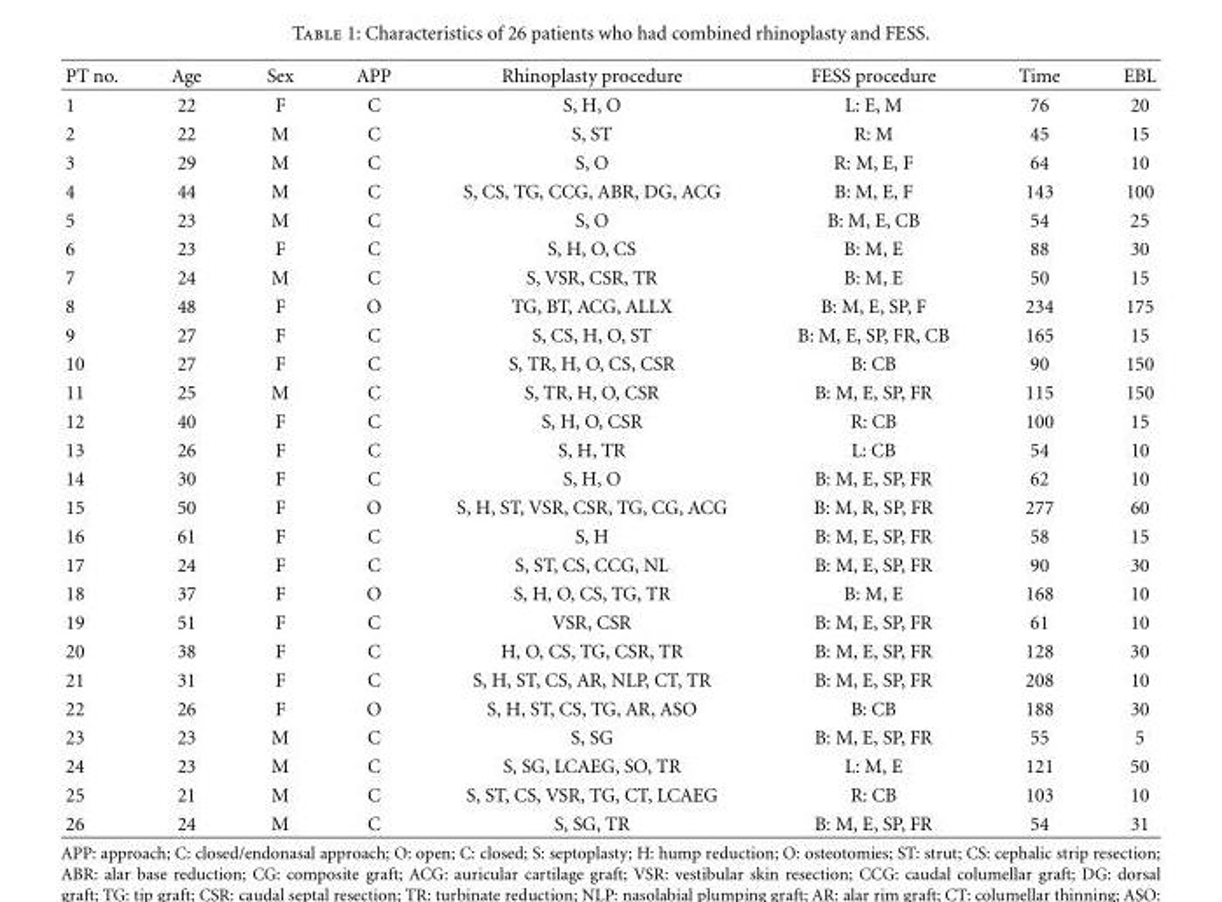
<table><thead><tr><td>PT no.</td><td>Age</td><td>Sex</td><td>APP</td><td>Rhinoplasty procedure</td><td>FESS procedure</td><td>Time</td><td>EBL</td></tr></thead><tbody><tr><td>1</td><td>22</td><td>F</td><td>C</td><td>S, H, O</td><td>L: E, M</td><td>76</td><td>20</td></tr><tr><td>2</td><td>22</td><td>M</td><td>C</td><td>S, ST</td><td>R: M</td><td>45</td><td>15</td></tr><tr><td>3</td><td>29</td><td>M</td><td>C</td><td>S, O</td><td>R: M, E, F</td><td>64</td><td>10</td></tr><tr><td>4</td><td>44</td><td>M</td><td>C</td><td>S, CS, TG, CCG, ABR, DG, ACG</td><td>B: M, E, F</td><td>143</td><td>100</td></tr><tr><td>5</td><td>23</td><td>M</td><td>C</td><td>S, O</td><td>B: M, E, CB</td><td>54</td><td>25</td></tr><tr><td>6</td><td>23</td><td>F</td><td>C</td><td>S, H, O, CS</td><td>B: M, E</td><td>88</td><td>30</td></tr><tr><td>7</td><td>24</td><td>M</td><td>C</td><td>S, VSR, CSR, TR</td><td>B: M, E</td><td>50</td><td>15</td></tr><tr><td>8</td><td>48</td><td>F</td><td>O</td><td>TG, BT, ACG, ALLX</td><td>B: M, E, SP, F</td><td>234</td><td>175</td></tr><tr><td>9</td><td>27</td><td>F</td><td>C</td><td>S, CS, H, O, ST</td><td>B: M, E, SP, FR, CB</td><td>165</td><td>15</td></tr><tr><td>10</td><td>27</td><td>F</td><td>C</td><td>S, TR, H, O, CS, CSR</td><td>B: CB</td><td>90</td><td>150</td></tr><tr><td>11</td><td>25</td><td>M</td><td>C</td><td>S, TR, H, O, CSR</td><td>B: M, E, SP, FR</td><td>115</td><td>150</td></tr><tr><td>12</td><td>40</td><td>F</td><td>C</td><td>S, H, O, CSR</td><td>R: CB</td><td>100</td><td>15</td></tr><tr><td>13</td><td>26</td><td>F</td><td>C</td><td>S, H, TR</td><td>L: CB</td><td>54</td><td>10</td></tr><tr><td>14</td><td>30</td><td>F</td><td>C</td><td>S, H, O</td><td>B: M, E, SP, FR</td><td>62</td><td>10</td></tr><tr><td>15</td><td>50</td><td>F</td><td>O</td><td>S, H, ST, VSR, CSR, TG, CG, ACG</td><td>B: M, R, SP, FR</td><td>277</td><td>60</td></tr><tr><td>16</td><td>61</td><td>F</td><td>C</td><td>S, H</td><td>B: M, E, SP, FR</td><td>58</td><td>15</td></tr><tr><td>17</td><td>24</td><td>F</td><td>C</td><td>S, ST, CS, CCG, NL</td><td>B: M, E, SP, FR</td><td>90</td><td>30</td></tr><tr><td>18</td><td>37</td><td>F</td><td>O</td><td>S, H, O, CS, TG, TR</td><td>B: M, E</td><td>168</td><td>10</td></tr><tr><td>19</td><td>51</td><td>F</td><td>C</td><td>VSR, CSR</td><td>B: M, E, SP, FR</td><td>61</td><td>10</td></tr><tr><td>20</td><td>38</td><td>F</td><td>C</td><td>H, O, CS, TG, CSR, TR</td><td>B: M, E, SP, FR</td><td>128</td><td>30</td></tr><tr><td>21</td><td>31</td><td>F</td><td>C</td><td>S, H, ST, CS, AR, NLP, CT, TR</td><td>B: M, E, SP, FR</td><td>208</td><td>10</td></tr><tr><td>22</td><td>26</td><td>F</td><td>O</td><td>S, H, ST, CS, TG, AR, ASO</td><td>B: CB</td><td>188</td><td>30</td></tr><tr><td>23</td><td>23</td><td>M</td><td>C</td><td>S, SG</td><td>B: M, E, SP, FR</td><td>55</td><td>5</td></tr><tr><td>24</td><td>23</td><td>M</td><td>C</td><td>S, SG, LCAEG, SO, TR</td><td>L: M, E</td><td>121</td><td>50</td></tr><tr><td>25</td><td>21</td><td>M</td><td>C</td><td>S, ST, CS, VSR, TG, CT, LCAEG</td><td>R: CB</td><td>103</td><td>10</td></tr><tr><td>26</td><td>24</td><td>M</td><td>C</td><td>S, SG, TR</td><td>B: M, E, SP, FR</td><td>54</td><td>31</td></tr></tbody></table>